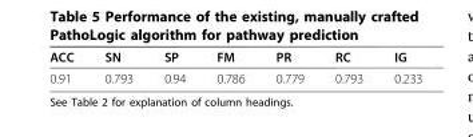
<table><thead><tr><td>ACC</td><td>SN</td><td>SP</td><td>FM</td><td>PR</td><td>RC</td><td>IG</td></tr></thead><tbody><tr><td>0.91</td><td>0.793</td><td>0.94</td><td>0.786</td><td>0.779</td><td>0.793</td><td>0.233</td></tr></tbody></table>